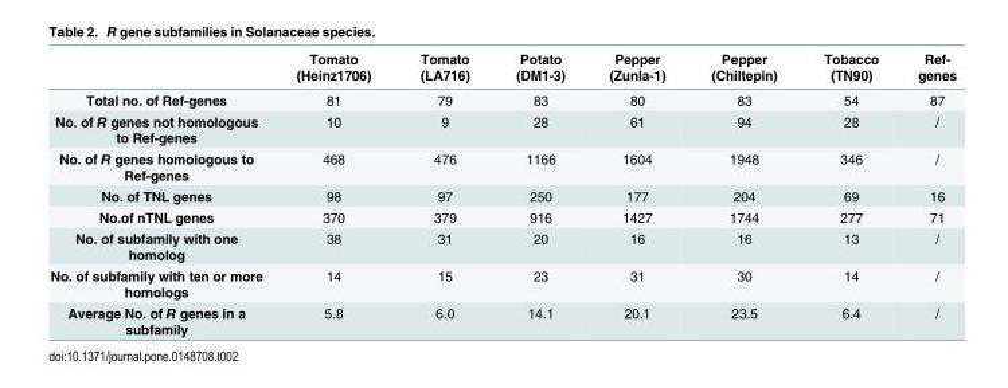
<table><thead><tr><td></td><td>Tomato (Heinz1706)</td><td>Tomato (LA716)</td><td>Potato (DM1-3)</td><td>Pepper (Zunla-1)</td><td>Pepper (Chiltepin)</td><td>Tobacco (TN90)</td><td>Ref- genes</td></tr></thead><tbody><tr><td>Total no. of Ref-genes</td><td>81</td><td>79</td><td>83</td><td>80</td><td>83</td><td>54</td><td>87</td></tr><tr><td>No. of R genes not homologous to Ref-genes</td><td>10</td><td>9</td><td>28</td><td>61</td><td>94</td><td>28</td><td>/</td></tr><tr><td>No. of R genes homologous to Ref-genes</td><td>468</td><td>476</td><td>1166</td><td>1604</td><td>1948</td><td>346</td><td>/</td></tr><tr><td>No. of TNL genes</td><td>98</td><td>97</td><td>250</td><td>177</td><td>204</td><td>69</td><td>16</td></tr><tr><td>No.of nTNL genes</td><td>370</td><td>379</td><td>916</td><td>1427</td><td>1744</td><td>277</td><td>71</td></tr><tr><td>No. of subfamily with one homolog</td><td>38</td><td>31</td><td>20</td><td>16</td><td>16</td><td>13</td><td>/</td></tr><tr><td>No. of subfamily with ten or more homologs</td><td>14</td><td>15</td><td>23</td><td>31</td><td>30</td><td>14</td><td>/</td></tr><tr><td>Average No. of R genes in a subfamily</td><td>5.8</td><td>6.0</td><td>14.1</td><td>20.1</td><td>23.5</td><td>6.4</td><td>/</td></tr></tbody></table>